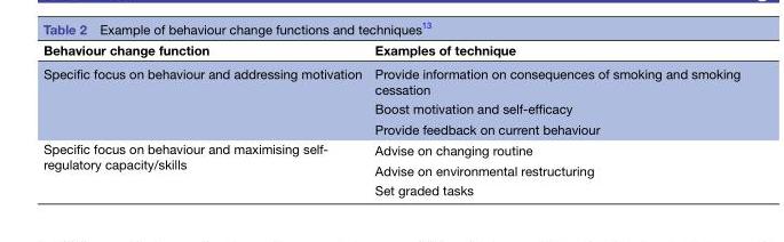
<table><thead><tr><td>Behaviour change function</td><td>Examples of technique</td></tr></thead><tbody><tr><td rowspan="3">Specific focus on behaviour and addressing motivation</td><td>Provide information on consequences of smoking and smoking cessation</td></tr><tr><td>Boost motivation and self-efficacy</td></tr><tr><td>Provide feedback on current behaviour</td></tr><tr><td rowspan="3">Specific focus on behaviour and maximising self- regulatory capacity/skills</td><td>Advise on changing routine</td></tr><tr><td>Advise on environmental restructuring</td></tr><tr><td>Set graded tasks</td></tr></tbody></table>